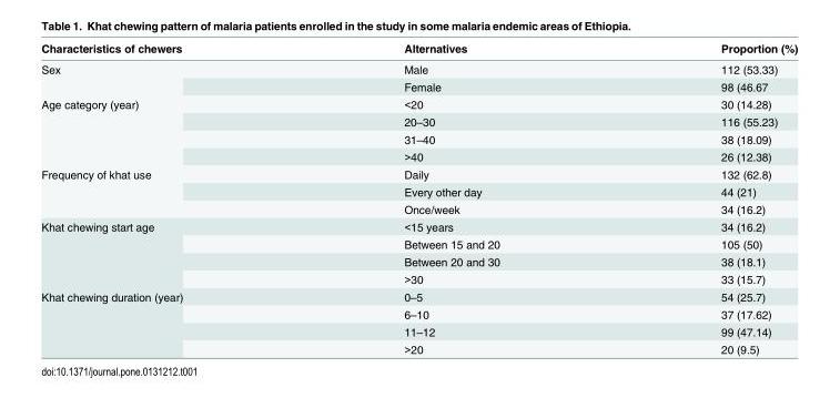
<table><thead><tr><td>Characteristics of chewers</td><td>Alternatives</td><td>Proportion (%)</td></tr></thead><tbody><tr><td rowspan="2">Sex</td><td>Male</td><td>112 (53.33)</td></tr><tr><td>Female</td><td>98 (46.67</td></tr><tr><td rowspan="4">Age category (year)</td><td>&lt;20</td><td>30 (14.28)</td></tr><tr><td>20–30</td><td>116 (55.23)</td></tr><tr><td>31–40</td><td>38 (18.09)</td></tr><tr><td>&gt;40</td><td>26 (12.38)</td></tr><tr><td rowspan="3">Frequency of khat use</td><td>Daily</td><td>132 (62.8)</td></tr><tr><td>Every other day</td><td>44 (21)</td></tr><tr><td>Once/week</td><td>34 (16.2)</td></tr><tr><td rowspan="4">Khat chewing start age</td><td>&lt;15 years</td><td>34 (16.2)</td></tr><tr><td>Between 15 and 20</td><td>105 (50)</td></tr><tr><td>Between 20 and 30</td><td>38 (18.1)</td></tr><tr><td>&gt;30</td><td>33 (15.7)</td></tr><tr><td rowspan="4">Khat chewing duration (year)</td><td>0–5</td><td>54 (25.7)</td></tr><tr><td>6–10</td><td>37 (17.62)</td></tr><tr><td>11–12</td><td>99 (47.14)</td></tr><tr><td>&gt;20</td><td>20 (9.5)</td></tr></tbody></table>